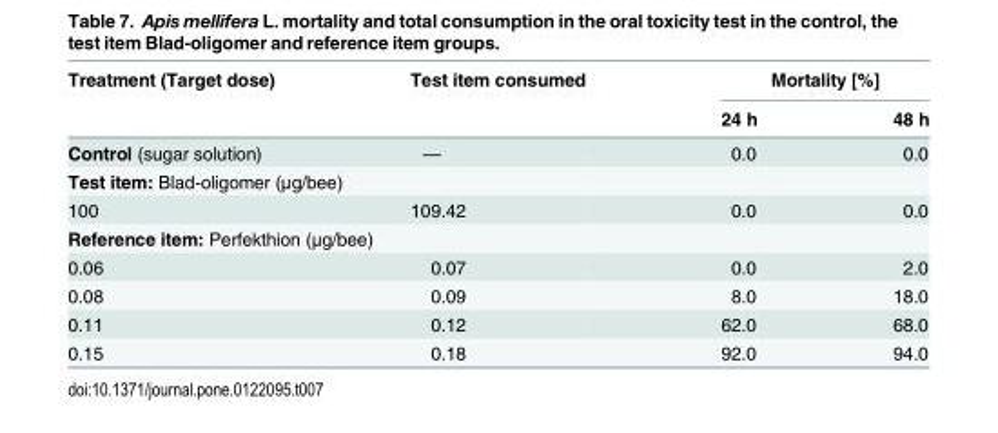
<table><thead><tr><td rowspan="2">Treatment (Target dose)</td><td rowspan="2">Test item consumed</td><td colspan="2">Mortality [%]</td></tr><tr><td>24 h</td><td>48 h</td></tr></thead><tbody><tr><td>Control (sugar solution)</td><td>—</td><td>0.0</td><td>0.0</td></tr><tr><td colspan="4">Test item: Blad-oligomer (μg/bee)</td></tr><tr><td>100</td><td>109.42</td><td>0.0</td><td>0.0</td></tr><tr><td colspan="4">Reference item: Perfekthion (μg/bee)</td></tr><tr><td>0.06</td><td>0.07</td><td>0.0</td><td>2.0</td></tr><tr><td>0.08</td><td>0.09</td><td>8.0</td><td>18.0</td></tr><tr><td>0.11</td><td>0.12</td><td>62.0</td><td>68.0</td></tr><tr><td>0.15</td><td>0.18</td><td>92.0</td><td>94.0</td></tr></tbody></table>